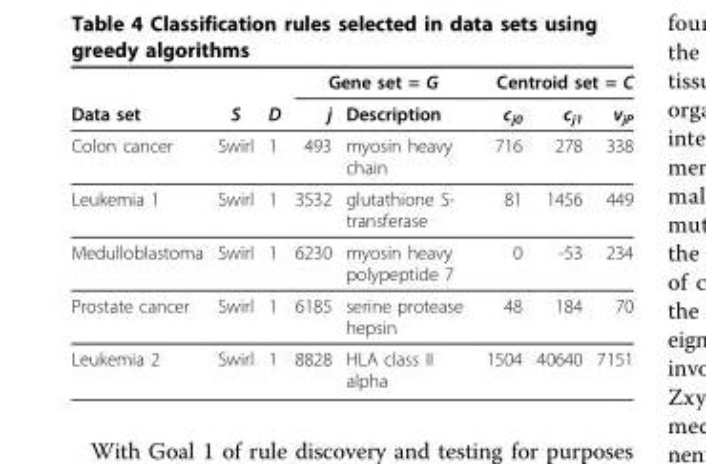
<table><thead><tr><td rowspan="2">Data set</td><td rowspan="2">S</td><td rowspan="2">D</td><td colspan="2">Gene set = G</td><td colspan="3">Centroid set = C</td></tr><tr><td>j</td><td>Description</td><td>c<sub>j0</sub></td><td>c<sub>j1</sub></td><td>v<sub>jP</sub></td></tr></thead><tbody><tr><td>Colon cancer</td><td>Swirl</td><td>1</td><td>493</td><td>myosin heavy chain</td><td>716</td><td>278</td><td>338</td></tr><tr><td>Leukemia 1</td><td>Swirl</td><td>1</td><td>3532</td><td>glutathione S- transferase</td><td>81</td><td>1456</td><td>449</td></tr><tr><td>Medulloblastoma</td><td>Swirl</td><td>1</td><td>6230</td><td>myosin heavy polypeptide 7</td><td>0</td><td>-53</td><td>234</td></tr><tr><td>Prostate cancer</td><td>Swirl</td><td>1</td><td>6185</td><td>serine protease hepsin</td><td>48</td><td>184</td><td>70</td></tr><tr><td>Leukemia 2</td><td>Swirl</td><td>1</td><td>8828</td><td>HLA class II alpha</td><td>1504</td><td>40640</td><td>7151</td></tr></tbody></table>